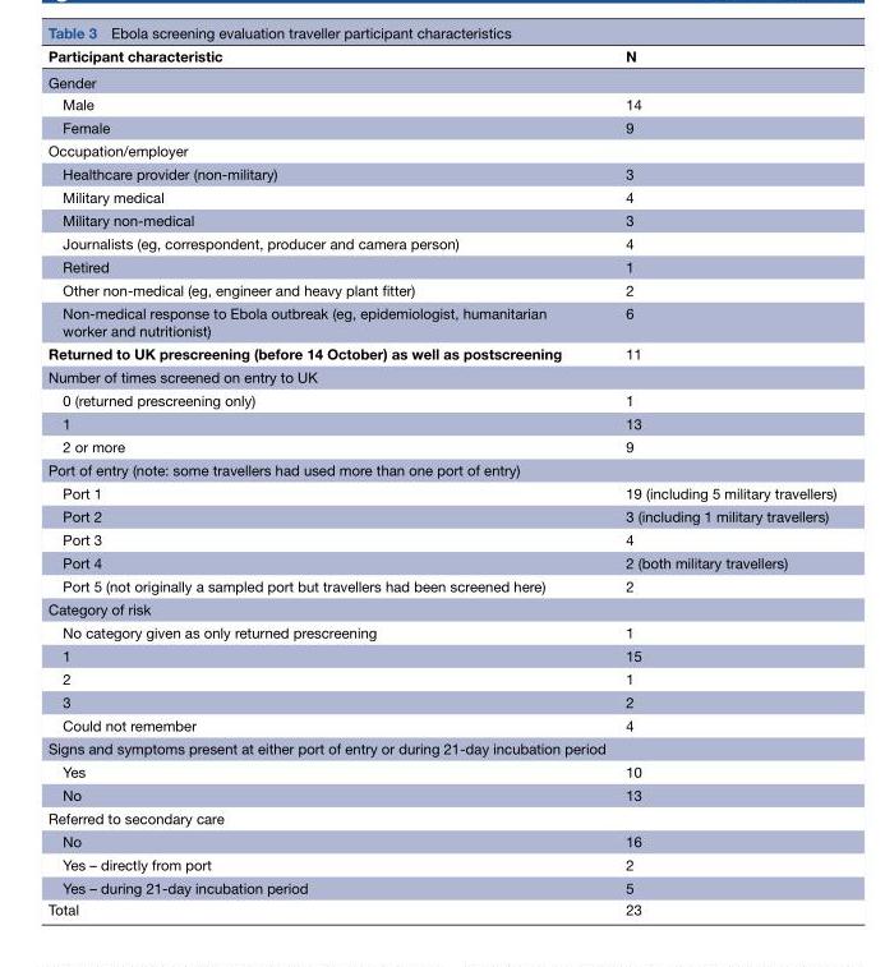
<table><thead><tr><td>Participant characteristic</td><td>N</td></tr></thead><tbody><tr><td colspan="2">Gender</td></tr><tr><td>Male</td><td>14</td></tr><tr><td>Female</td><td>9</td></tr><tr><td colspan="2">Occupation/employer</td></tr><tr><td>Healthcare provider (non-military)</td><td>3</td></tr><tr><td>Military medical</td><td>4</td></tr><tr><td>Military non-medical</td><td>3</td></tr><tr><td>Journalists (eg, correspondent, producer and camera person)</td><td>4</td></tr><tr><td>Retired</td><td>1</td></tr><tr><td>Other non-medical (eg, engineer and heavy plant fitter)</td><td>2</td></tr><tr><td>Non-medical response to Ebola outbreak (eg, epidemiologist, humanitarian worker and nutritionist)</td><td>6</td></tr><tr><td>Returned to UK prescreening (before 14 October) as well as postscreening</td><td>11</td></tr><tr><td colspan="2">Number of times screened on entry to UK</td></tr><tr><td>0 (returned prescreening only)</td><td>1</td></tr><tr><td>1</td><td>13</td></tr><tr><td>2 or more</td><td>9</td></tr><tr><td colspan="2">Port of entry (note: some travellers had used more than one port of entry)</td></tr><tr><td>Port 1</td><td>19 (including 5 military travellers)</td></tr><tr><td>Port 2</td><td>3 (including 1 military travellers)</td></tr><tr><td>Port 3</td><td>4</td></tr><tr><td>Port 4</td><td>2 (both military travellers)</td></tr><tr><td>Port 5 (not originally a sampled port but travellers had been screened here)</td><td>2</td></tr><tr><td colspan="2">Category of risk</td></tr><tr><td>No category given as only returned prescreening</td><td>1</td></tr><tr><td>1</td><td>15</td></tr><tr><td>2</td><td>1</td></tr><tr><td>3</td><td>2</td></tr><tr><td>Could not remember</td><td>4</td></tr><tr><td colspan="2">Signs and symptoms present at either port of entry or during 21-day incubation period</td></tr><tr><td>Yes</td><td>10</td></tr><tr><td>No</td><td>13</td></tr><tr><td colspan="2">Referred to secondary care</td></tr><tr><td>No</td><td>16</td></tr><tr><td>Yes – directly from port</td><td>2</td></tr><tr><td>Yes – during 21-day incubation period</td><td>5</td></tr><tr><td>Total</td><td>23</td></tr></tbody></table>